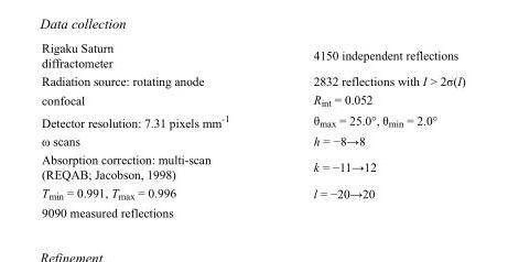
<table><tbody><tr><td>Rigaku Saturn diffractometer</td><td>4150 independent reflections</td></tr><tr><td>Radiation source: rotating anode</td><td>2832 reflections with I &gt; 2σ(I)</td></tr><tr><td>confocal</td><td>R<sub>int</sub> = 0.052</td></tr><tr><td>Detector resolution: 7.31 pixels mm<sup>-1</sup></td><td>θ<sub>max</sub> = 25.0°, θ<sub>min</sub> = 2.0°</td></tr><tr><td>ω scans</td><td>h = −8→8</td></tr><tr><td>Absorption correction: multi-scan (REQAB; Jacobson, 1998)</td><td>k = −11→12</td></tr><tr><td>T<sub>min</sub> = 0.991, T<sub>max</sub> = 0.996</td><td>l = −20→20</td></tr><tr><td>9090 measured reflections</td><td></td></tr></tbody></table>